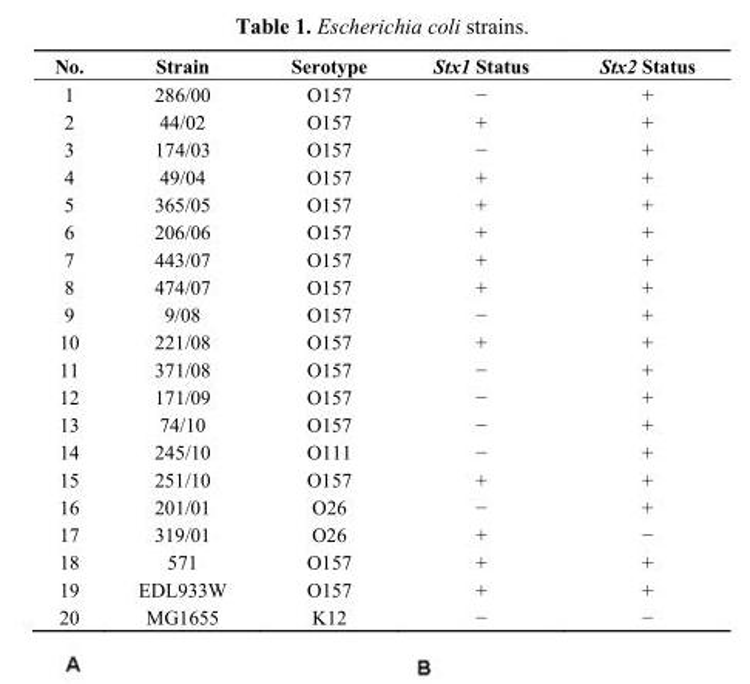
<table><thead><tr><td>No.</td><td>Strain</td><td>Serotype</td><td>Stx1 Status</td><td>Stx2 Status</td></tr></thead><tbody><tr><td>1</td><td>286/00</td><td>O157</td><td>−</td><td>+</td></tr><tr><td>2</td><td>44/02</td><td>O157</td><td>+</td><td>+</td></tr><tr><td>3</td><td>174/03</td><td>O157</td><td>−</td><td>+</td></tr><tr><td>4</td><td>49/04</td><td>O157</td><td>+</td><td>+</td></tr><tr><td>5</td><td>365/05</td><td>O157</td><td>+</td><td>+</td></tr><tr><td>6</td><td>206/06</td><td>O157</td><td>+</td><td>+</td></tr><tr><td>7</td><td>443/07</td><td>O157</td><td>+</td><td>+</td></tr><tr><td>8</td><td>474/07</td><td>O157</td><td>+</td><td>+</td></tr><tr><td>9</td><td>9/08</td><td>O157</td><td>−</td><td>+</td></tr><tr><td>10</td><td>221/08</td><td>O157</td><td>+</td><td>+</td></tr><tr><td>11</td><td>371/08</td><td>O157</td><td>−</td><td>+</td></tr><tr><td>12</td><td>171/09</td><td>O157</td><td>−</td><td>+</td></tr><tr><td>13</td><td>74/10</td><td>O157</td><td>−</td><td>+</td></tr><tr><td>14</td><td>245/10</td><td>O111</td><td>−</td><td>+</td></tr><tr><td>15</td><td>251/10</td><td>O157</td><td>+</td><td>+</td></tr><tr><td>16</td><td>201/01</td><td>O26</td><td>−</td><td>+</td></tr><tr><td>17</td><td>319/01</td><td>O26</td><td>+</td><td>−</td></tr><tr><td>18</td><td>571</td><td>O157</td><td>+</td><td>+</td></tr><tr><td>19</td><td>EDL933W</td><td>O157</td><td>+</td><td>+</td></tr><tr><td>20</td><td>MG1655</td><td>K12</td><td>−</td><td>−</td></tr></tbody></table>